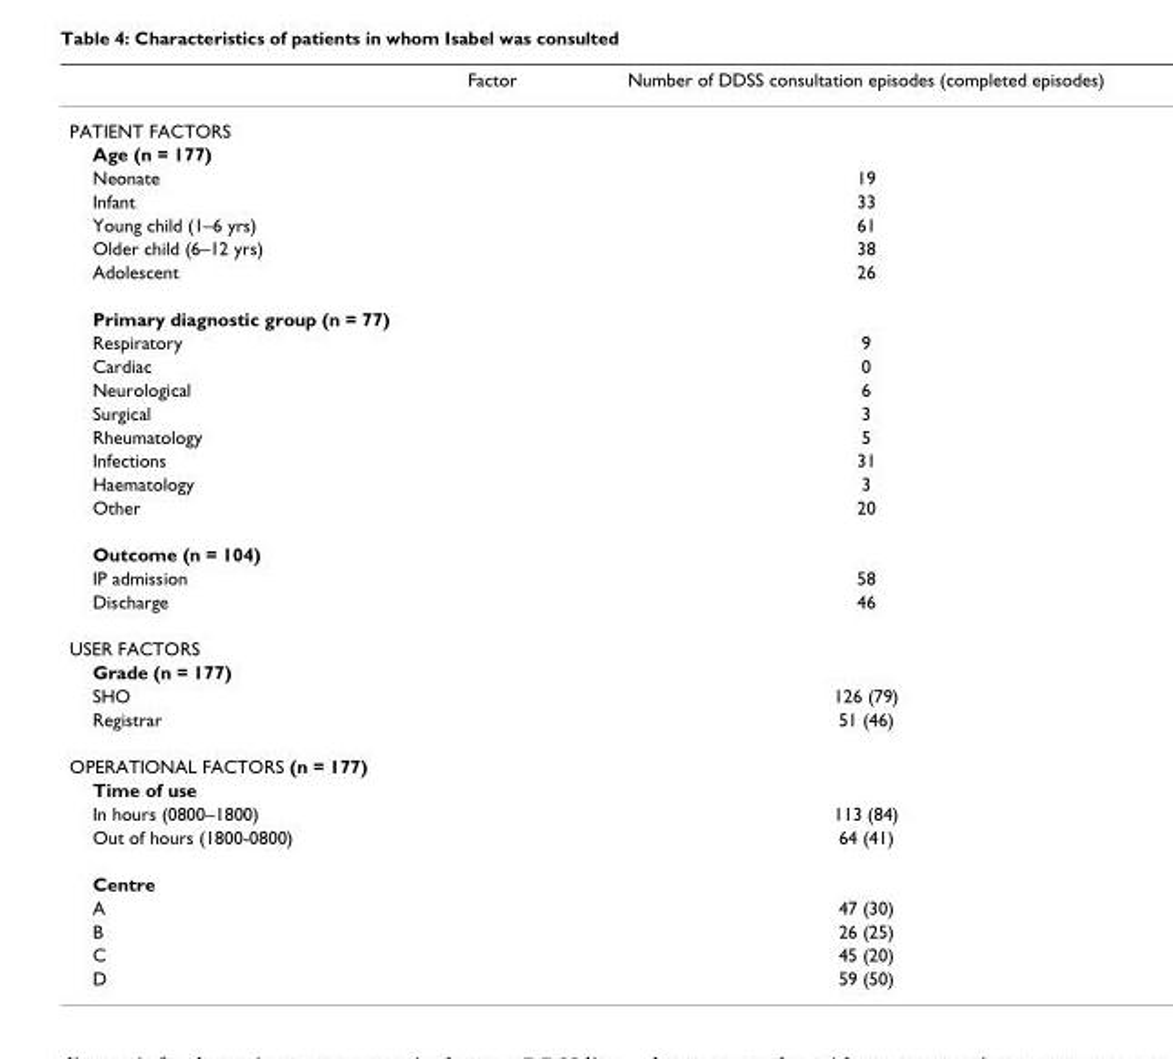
<table><thead><tr><td>Factor</td><td>Number of DDSS consultation episodes (completed episodes)</td></tr></thead><tbody><tr><td colspan="2">PATIENT FACTORS</td></tr><tr><td colspan="2">Age (n = 177)</td></tr><tr><td>Neonate</td><td>19</td></tr><tr><td>Infant</td><td>33</td></tr><tr><td>Young child (1–6 yrs)</td><td>61</td></tr><tr><td>Older child (6–12 yrs)</td><td>38</td></tr><tr><td>Adolescent</td><td>26</td></tr><tr><td colspan="2">Primary diagnostic group (n = 77)</td></tr><tr><td>Respiratory</td><td>9</td></tr><tr><td>Cardiac</td><td>0</td></tr><tr><td>Neurological</td><td>6</td></tr><tr><td>Surgical</td><td>3</td></tr><tr><td>Rheumatology</td><td>5</td></tr><tr><td>Infections</td><td>31</td></tr><tr><td>Haematology</td><td>3</td></tr><tr><td>Other</td><td>20</td></tr><tr><td colspan="2">Outcome (n = 104)</td></tr><tr><td>IP admission</td><td>58</td></tr><tr><td>Discharge</td><td>46</td></tr><tr><td colspan="2">USER FACTORS</td></tr><tr><td colspan="2">Grade (n = 177)</td></tr><tr><td>SHO</td><td>126 (79)</td></tr><tr><td>Registrar</td><td>51 (46)</td></tr><tr><td colspan="2">OPERATIONAL FACTORS (n = 177)</td></tr><tr><td colspan="2">Time of use</td></tr><tr><td>In hours (0800–1800)</td><td>113 (84)</td></tr><tr><td>Out of hours (1800-0800)</td><td>64 (41)</td></tr><tr><td colspan="2">Centre</td></tr><tr><td>A</td><td>47 (30)</td></tr><tr><td>B</td><td>26 (25)</td></tr><tr><td>C</td><td>45 (20)</td></tr><tr><td>D</td><td>59 (50)</td></tr></tbody></table>